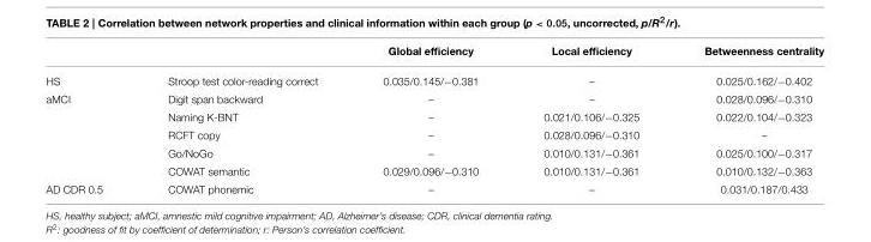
<table><thead><tr><td></td><td></td><td>Global efficiency</td><td>Local efficiency</td><td>Betweenness centrality</td></tr></thead><tbody><tr><td>HS</td><td>Stroop test color-reading correct</td><td>0.035/0.145/−0.381</td><td>–</td><td>0.025/0.162/−0.402</td></tr><tr><td rowspan="5">aMCI</td><td>Digit span backward</td><td>–</td><td>–</td><td>0.028/0.096/−0.310</td></tr><tr><td>Naming K-BNT</td><td>–</td><td>0.021/0.106/−0.325</td><td>0.022/0.104/−0.323</td></tr><tr><td>RCFT copy</td><td>–</td><td>0.028/0.096/−0.310</td><td>–</td></tr><tr><td>Go/NoGo</td><td>–</td><td>0.010/0.131/−0.361</td><td>0.025/0.100/−0.317</td></tr><tr><td>COWAT semantic</td><td>0.029/0.096/−0.310</td><td>0.010/0.131/−0.361</td><td>0.010/0.132/−0.363</td></tr><tr><td>AD CDR 0.5</td><td>COWAT phonemic</td><td>–</td><td>–</td><td>0.031/0.187/0.433</td></tr></tbody></table>